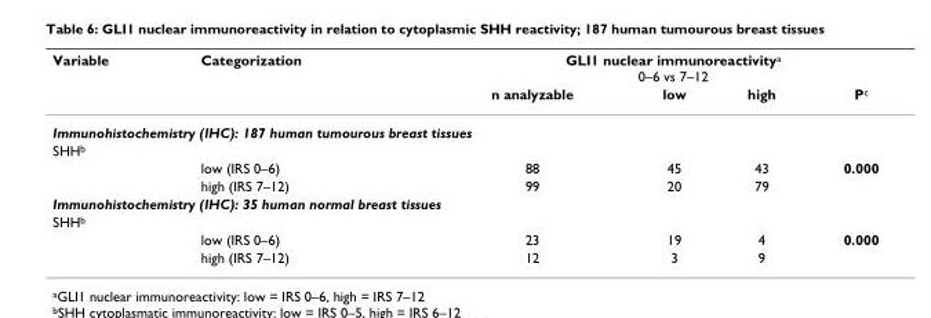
<table><thead><tr><td rowspan="2">Variable</td><td rowspan="2">Categorization</td><td colspan="4">GLI1 nuclear immunoreactivity<sup>a</sup> 0–6 vs 7–12</td></tr><tr><td>n analyzable</td><td>low</td><td>high</td><td>P<sup>c</sup></td></tr></thead><tbody><tr><td colspan="6">Immunohistochemistry (IHC): 187 human tumourous breast tissues</td></tr><tr><td colspan="6">SHH<sup>b</sup></td></tr><tr><td></td><td>low (IRS 0–6)</td><td>88</td><td>45</td><td>43</td><td>0.000</td></tr><tr><td></td><td>high (IRS 7–12)</td><td>99</td><td>20</td><td>79</td><td></td></tr><tr><td colspan="6">Immunohistochemistry (IHC): 35 human normal breast tissues</td></tr><tr><td colspan="6">SHH<sup>b</sup></td></tr><tr><td></td><td>low (IRS 0–6)</td><td>23</td><td>19</td><td>4</td><td>0.000</td></tr><tr><td></td><td>high (IRS 7–12)</td><td>12</td><td>3</td><td>9</td><td></td></tr></tbody></table>